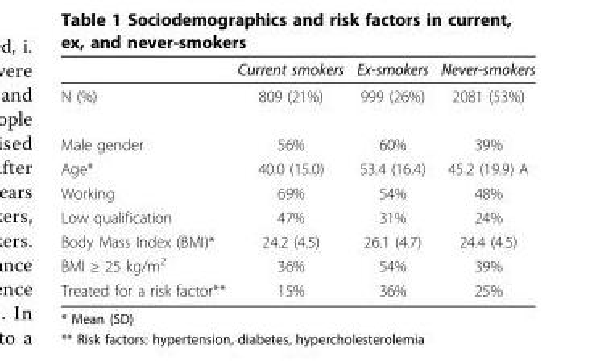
<table><thead><tr><td></td><td>Current smokers</td><td>Ex-smokers</td><td>Never-smokers</td></tr></thead><tbody><tr><td>N (%)</td><td>809 (21%)</td><td>999 (26%)</td><td>2081 (53%)</td></tr><tr><td>Male gender</td><td>56%</td><td>60%</td><td>39%</td></tr><tr><td>Age*</td><td>40.0 (15.0)</td><td>53.4 (16.4)</td><td>45.2 (19.9) A</td></tr><tr><td>Working</td><td>69%</td><td>54%</td><td>48%</td></tr><tr><td>Low qualification</td><td>47%</td><td>31%</td><td>24%</td></tr><tr><td>Body Mass Index (BMI)*</td><td>24.2 (4.5)</td><td>26.1 (4.7)</td><td>24.4 (4.5)</td></tr><tr><td>BMI ≥ 25 kg/m<sup>2</sup></td><td>36%</td><td>54%</td><td>39%</td></tr><tr><td>Treated for a risk factor**</td><td>15%</td><td>36%</td><td>25%</td></tr></tbody></table>